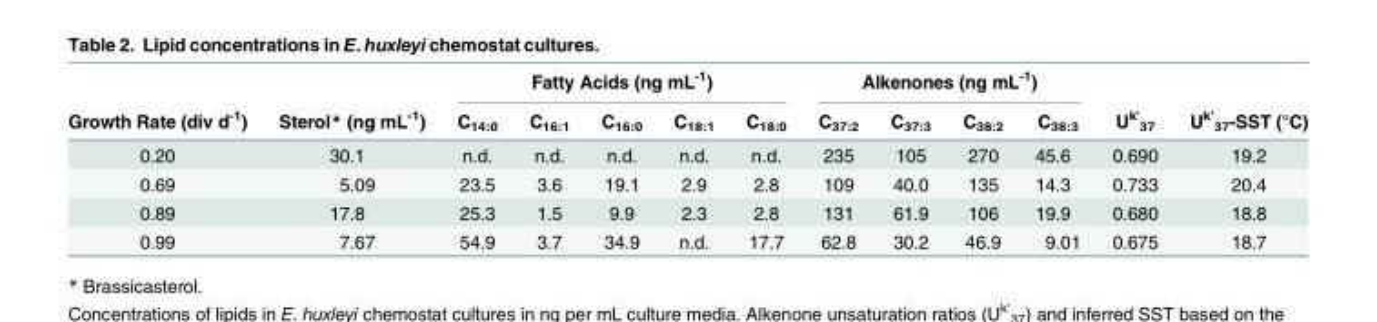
<table><thead><tr><td rowspan="2">Growth Rate (div d<sup>-1</sup>)</td><td rowspan="2">Sterol* (ng mL<sup>-1</sup>)</td><td colspan="5">Fatty Acids (ng mL<sup>-1</sup>)</td><td colspan="4">Alkenones (ng mL<sup>-1</sup>)</td><td rowspan="2">U<sup>k&#x27;</sup> <sub>37</sub></td><td rowspan="2">U<sup>k’</sup> <sub>37</sub>-SST (°C)</td></tr><tr><td>C<sub>14:0</sub></td><td>C<sub>16:1</sub></td><td>C<sub>16:0</sub></td><td>C<sub>18:1</sub></td><td>C<sub>18:0</sub></td><td>C<sub>37:2</sub></td><td>C<sub>37:3</sub></td><td>C<sub>38:2</sub></td><td>C<sub>38:3</sub></td></tr></thead><tbody><tr><td>0.20</td><td>30.1</td><td>n.d.</td><td>n.d.</td><td>n.d.</td><td>n.d.</td><td>n.d.</td><td>235</td><td>105</td><td>270</td><td>45.6</td><td>0.690</td><td>19.2</td></tr><tr><td>0.69</td><td>5.09</td><td>23.5</td><td>3.6</td><td>19.1</td><td>2.9</td><td>2.8</td><td>109</td><td>40.0</td><td>135</td><td>14.3</td><td>0.733</td><td>20.4</td></tr><tr><td>0.89</td><td>17.8</td><td>25.3</td><td>1.5</td><td>9.9</td><td>2.3</td><td>2.8</td><td>131</td><td>61.9</td><td>106</td><td>19.9</td><td>0.680</td><td>18.8</td></tr><tr><td>0.99</td><td>7.67</td><td>54.9</td><td>3.7</td><td>34.9</td><td>n.d.</td><td>17.7</td><td>62.8</td><td>30.2</td><td>46.9</td><td>9.01</td><td>0.675</td><td>18.7</td></tr></tbody></table>